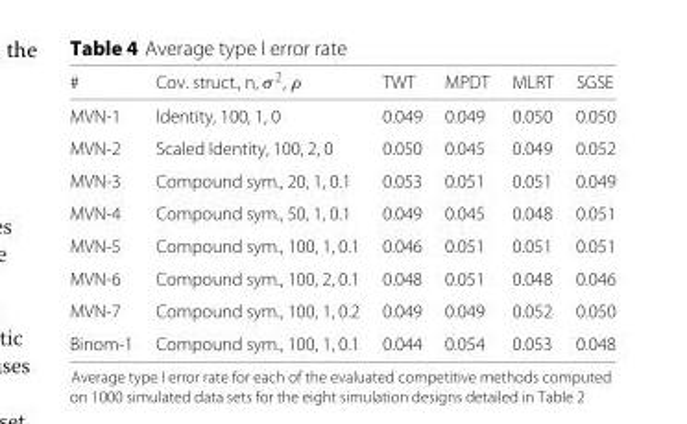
<table><thead><tr><td>#</td><td>Cov. struct., n, σ <sup>2</sup>, ρ</td><td>TWT</td><td>MPDT</td><td>MLRT</td><td>SGSE</td></tr></thead><tbody><tr><td>MVN-1</td><td>Identity, 100, 1, 0</td><td>0.049</td><td>0.049</td><td>0.050</td><td>0.050</td></tr><tr><td>MVN-2</td><td>Scaled Identity, 100, 2, 0</td><td>0.050</td><td>0.045</td><td>0.049</td><td>0.052</td></tr><tr><td>MVN-3</td><td>Compound sym., 20, 1, 0.1</td><td>0.053</td><td>0.051</td><td>0.051</td><td>0.049</td></tr><tr><td>MVN-4</td><td>Compound sym., 50, 1, 0.1</td><td>0.049</td><td>0.045</td><td>0.048</td><td>0.051</td></tr><tr><td>MVN-5</td><td>Compound sym., 100, 1, 0.1</td><td>0.046</td><td>0.051</td><td>0.051</td><td>0.051</td></tr><tr><td>MVN-6</td><td>Compound sym., 100, 2, 0.1</td><td>0.048</td><td>0.051</td><td>0.048</td><td>0.046</td></tr><tr><td>MVN-7</td><td>Compound sym., 100, 1, 0.2</td><td>0.049</td><td>0.049</td><td>0.052</td><td>0.050</td></tr><tr><td>Binom-1</td><td>Compound sym., 100, 1, 0.1</td><td>0.044</td><td>0.054</td><td>0.053</td><td>0.048</td></tr></tbody></table>